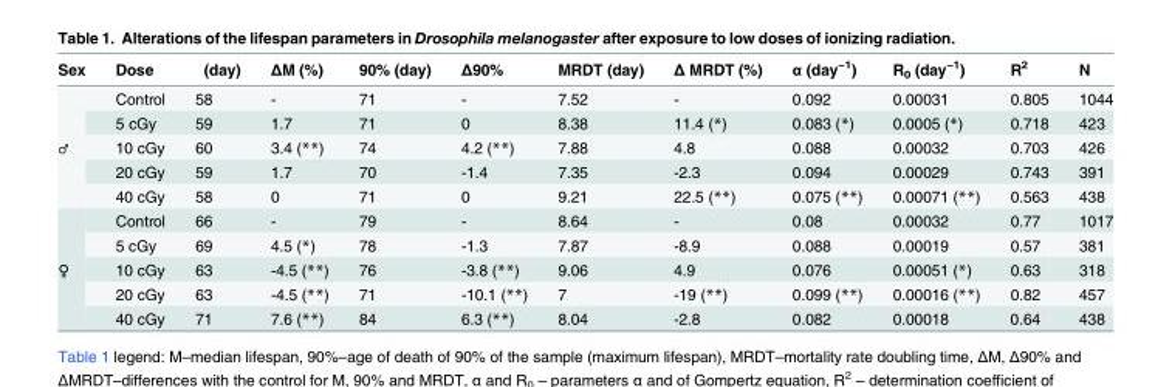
<table><thead><tr><td>Sex</td><td>Dose</td><td>М (day)</td><td>ΔM (%)</td><td>90% (day)</td><td>Δ90%</td><td>MRDT (day)</td><td>Δ MRDT (%)</td><td>α (day<sup>−1</sup>)</td><td>R<sub>0</sub> (day<sup>−1</sup>)</td><td>R<sup>2</sup></td><td>N</td></tr></thead><tbody><tr><td rowspan="5">♂</td><td>Control</td><td>58</td><td>-</td><td>71</td><td>-</td><td>7.52</td><td>-</td><td>0.092</td><td>0.00031</td><td>0.805</td><td>1044</td></tr><tr><td>5 cGy</td><td>59</td><td>1.7</td><td>71</td><td>0</td><td>8.38</td><td>11.4 (*)</td><td>0.083 (*)</td><td>0.0005 (*)</td><td>0.718</td><td>423</td></tr><tr><td>10 cGy</td><td>60</td><td>3.4 (**)</td><td>74</td><td>4.2 (**)</td><td>7.88</td><td>4.8</td><td>0.088</td><td>0.00032</td><td>0.703</td><td>426</td></tr><tr><td>20 cGy</td><td>59</td><td>1.7</td><td>70</td><td>-1.4</td><td>7.35</td><td>-2.3</td><td>0.094</td><td>0.00029</td><td>0.743</td><td>391</td></tr><tr><td>40 cGy</td><td>58</td><td>0</td><td>71</td><td>0</td><td>9.21</td><td>22.5 (**)</td><td>0.075 (**)</td><td>0.00071 (**)</td><td>0.563</td><td>438</td></tr><tr><td rowspan="5">♀</td><td>Control</td><td>66</td><td>-</td><td>79</td><td>-</td><td>8.64</td><td>-</td><td>0.08</td><td>0.00032</td><td>0.77</td><td>1017</td></tr><tr><td>5 cGy</td><td>69</td><td>4.5 (*)</td><td>78</td><td>-1.3</td><td>7.87</td><td>-8.9</td><td>0.088</td><td>0.00019</td><td>0.57</td><td>381</td></tr><tr><td>10 cGy</td><td>63</td><td>-4.5 (**)</td><td>76</td><td>-3.8 (**)</td><td>9.06</td><td>4.9</td><td>0.076</td><td>0.00051 (*)</td><td>0.63</td><td>318</td></tr><tr><td>20 cGy</td><td>63</td><td>-4.5 (**)</td><td>71</td><td>-10.1 (**)</td><td>7</td><td>-19 (**)</td><td>0.099 (**)</td><td>0.00016 (**)</td><td>0.82</td><td>457</td></tr><tr><td>40 cGy</td><td>71</td><td>7.6 (**)</td><td>84</td><td>6.3 (**)</td><td>8.04</td><td>-2.8</td><td>0.082</td><td>0.00018</td><td>0.64</td><td>438</td></tr></tbody></table>